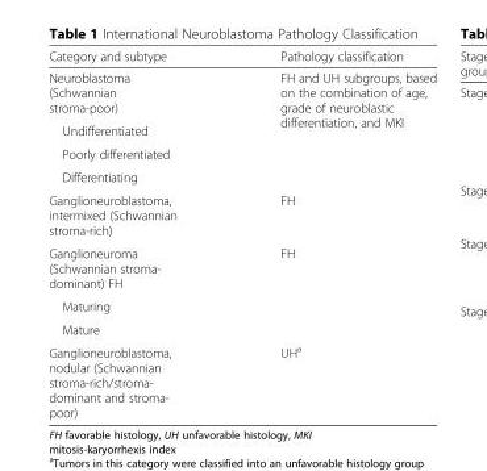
<table><thead><tr><td>Category and subtype</td><td>Pathology classification</td></tr></thead><tbody><tr><td>Neuroblastoma (Schwannian stroma-poor)</td><td rowspan="4">FH and UH subgroups, based on the combination of age, grade of neuroblastic differentiation, and MKI</td></tr><tr><td>Undifferentiated</td></tr><tr><td>Poorly differentiated</td></tr><tr><td>Differentiating</td></tr><tr><td>Ganglioneuroblastoma, intermixed (Schwannian stroma-rich)</td><td>FH</td></tr><tr><td>Ganglioneuroma (Schwannian stroma- dominant) FH</td><td>FH</td></tr><tr><td colspan="2">Maturing</td></tr><tr><td colspan="2">Mature</td></tr><tr><td>Ganglioneuroblastoma, nodular (Schwannian stroma-rich/stroma- dominant and stroma- poor)</td><td>UH<sup>a</sup></td></tr></tbody></table>